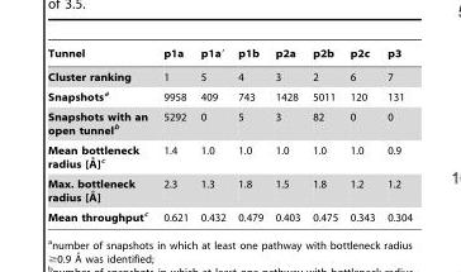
<table><thead><tr><td>Tunnel</td><td>p1a</td><td>p1a′</td><td>p1b</td><td>p2a</td><td>p2b</td><td>p2c</td><td>p3</td></tr></thead><tbody><tr><td>Cluster ranking</td><td>1</td><td>5</td><td>4</td><td>3</td><td>2</td><td>6</td><td>7</td></tr><tr><td>Snapshotsa</td><td>9958</td><td>409</td><td>743</td><td>1428</td><td>5011</td><td>120</td><td>131</td></tr><tr><td>Snapshots with an open tunnelb</td><td>5292</td><td>0</td><td>5</td><td>3</td><td>82</td><td>0</td><td>0</td></tr><tr><td>Mean bottleneck radius [A˚ ]c</td><td>1.4</td><td>1.0</td><td>1.0</td><td>1.0</td><td>1.0</td><td>1.0</td><td>0.9</td></tr><tr><td>Max. bottleneck radius [A˚ ]</td><td>2.3</td><td>1.3</td><td>1.8</td><td>1.5</td><td>1.8</td><td>1.2</td><td>1.2</td></tr><tr><td>Mean throughputc</td><td>0.621</td><td>0.432</td><td>0.479</td><td>0.403</td><td>0.475</td><td>0.343</td><td>0.304</td></tr></tbody></table>